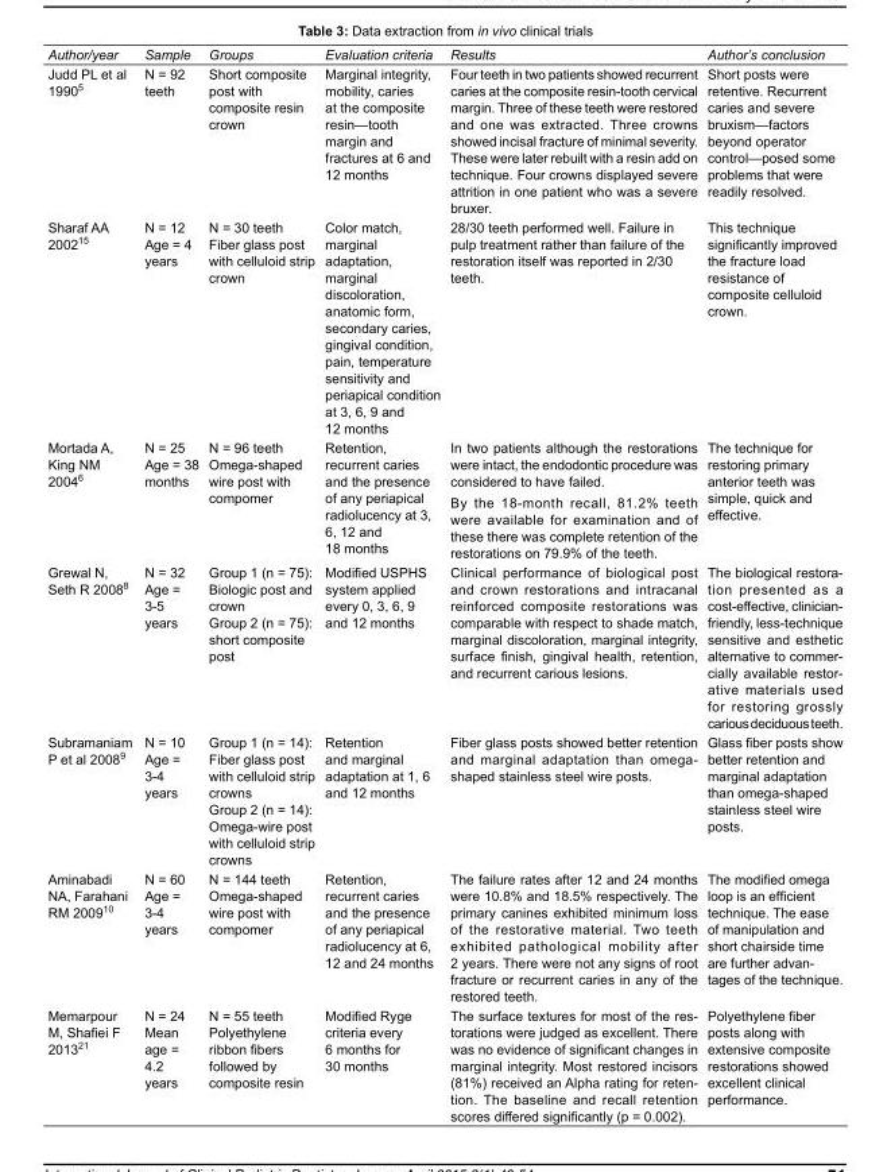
<table><tbody><tr><td>Author/year</td><td>Sample</td><td>Groups</td><td>Evaluation criteria</td><td>Results</td><td>Author’s conclusion</td></tr><tr><td>Judd PL et al 1990<sup>5</sup></td><td>N = 92 teeth</td><td>Short composite post with composite resin crown</td><td>Marginal integrity, mobility, caries at the composite resin—tooth margin and fractures at 6 and 12 months</td><td>Four teeth in two patients showed recurrent caries at the composite resin-tooth cervical margin. Three of these teeth were restored and one was extracted. Three crowns showed incisal fracture of minimal severity. These were later rebuilt with a resin add on technique. Four crowns displayed severe attrition in one patient who was a severe bruxer.</td><td>Short posts were retentive. Recurrent caries and severe bruxism—factors beyond operator control—posed some problems that were readily resolved.</td></tr><tr><td>Sharaf AA 2002<sup>15</sup></td><td>N = 12 Age = 4 years</td><td>N = 30 teeth Fiber glass post with celluloid strip crown</td><td>Color match, marginal adaptation, marginal discoloration, anatomic form, secondary caries, gingival condition, pain, temperature sensitivity and periapical condition at 3, 6, 9 and 12 months</td><td>28/30 teeth performed well. Failure in pulp treatment rather than failure of the restoration itself was reported in 2/30 teeth.</td><td>This technique significantly improved the fracture load resistance of composite celluloid crown.</td></tr><tr><td>Mortada A, King NM 2004<sup>6</sup></td><td>N = 25 Age = 38 months</td><td>N = 96 teeth Omega-shaped wire post with compomer</td><td>Retention, recurrent caries and the presence of any periapical radiolucency at 3, 6, 12 and 18 months</td><td>In two patients although the restorations were intact, the endodontic procedure was considered to have failed. By the 18-month recall, 81.2% teeth were available for examination and of these there was complete retention of the restorations on 79.9% of the teeth.</td><td>The technique for restoring primary anterior teeth was simple, quick and effective.</td></tr><tr><td>Grewal N, Seth R 2008<sup>8</sup></td><td>N = 32 Age = 3-5 years</td><td>Group 1 (n = 75): Biologic post and crown Group 2 (n = 75): short composite post</td><td>Modified USPHS system applied every 0, 3, 6, 9 and 12 months</td><td>Clinical performance of biological post and crown restorations and intracanal reinforced composite restorations was comparable with respect to shade match, marginal discoloration, marginal integrity, surface finish, gingival health, retention, and recurrent carious lesions.</td><td>The biological restora- tion presented as a cost-effective, clinician- friendly, less-technique sensitive and esthetic alternative to commer- cially available restor- ative materials used for restoring grossly carious deciduous teeth.</td></tr><tr><td>Subramaniam P et al 2008<sup>9</sup></td><td>N = 10 Age = 3-4 years</td><td>Group 1 (n = 14): Fiber glass post with celluloid strip crowns Group 2 (n = 14): Omega-wire post with celluloid strip crowns</td><td>Retention and marginal adaptation at 1, 6 and 12 months</td><td>Fiber glass posts showed better retention and marginal adaptation than omega- shaped stainless steel wire posts.</td><td>Glass fiber posts show better retention and marginal adaptation than omega-shaped stainless steel wire posts.</td></tr><tr><td>Aminabadi NA, Farahani RM 2009<sup>10</sup></td><td>N = 60 Age = 3-4 years</td><td>N = 144 teeth Omega-shaped wire post with compomer</td><td>Retention, recurrent caries and the presence of any periapical radiolucency at 6, 12 and 24 months</td><td>The failure rates after 12 and 24 months were 10.8% and 18.5% respectively. The primary canines exhibited minimum loss of the restorative material. Two teeth exhibited pathological mobility after 2 years. There were not any signs of root fracture or recurrent caries in any of the restored teeth.</td><td>The modified omega loop is an efficient technique. The ease of manipulation and short chairside time are further advan- tages of the technique.</td></tr><tr><td>Memarpour M, Shafiei F 201321</td><td>N = 24 Mean age = 4.2 years</td><td>N = 55 teeth Polyethylene ribbon fibers followed by composite resin</td><td>Modified Ryge criteria every 6 months for 30 months</td><td>The surface textures for most of the res- torations were judged as excellent. There was no evidence of significant changes in marginal integrity. Most restored incisors (81%) received an Alpha rating for reten- tion. The baseline and recall retention scores differed significantly (p = 0.002).</td><td>Polyethylene fiber posts along with extensive composite restorations showed excellent clinical performance.</td></tr></tbody></table>